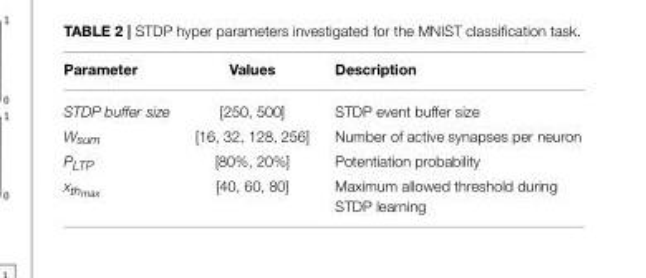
<table><thead><tr><td>Parameter</td><td>Values</td><td>Description</td></tr></thead><tbody><tr><td>STDP buffer size</td><td>[250, 500]</td><td>STDP event buffer size</td></tr><tr><td>W<sub>sum</sub></td><td>[16, 32, 128, 256]</td><td>Number of active synapses per neuron</td></tr><tr><td>P<sub>LTP</sub></td><td>[80%, 20%]</td><td>Potentiation probability</td></tr><tr><td>xthmax</td><td>[40, 60, 80]</td><td>Maximum allowed threshold during STDP learning</td></tr></tbody></table>